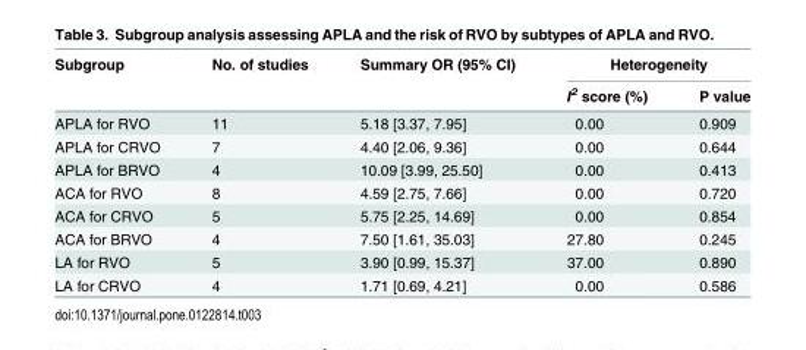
<table><thead><tr><td rowspan="2">Subgroup</td><td rowspan="2">No. of studies</td><td rowspan="2">Summary OR (95% CI)</td><td colspan="2">Heterogeneity</td></tr><tr><td>I<sup>2</sup> score (%)</td><td>P value</td></tr></thead><tbody><tr><td>APLA for RVO</td><td>11</td><td>5.18 [3.37, 7.95]</td><td>0.00</td><td>0.909</td></tr><tr><td>APLA for CRVO</td><td>7</td><td>4.40 [2.06, 9.36]</td><td>0.00</td><td>0.644</td></tr><tr><td>APLA for BRVO</td><td>4</td><td>10.09 [3.99, 25.50]</td><td>0.00</td><td>0.413</td></tr><tr><td>ACA for RVO</td><td>8</td><td>4.59 [2.75, 7.66]</td><td>0.00</td><td>0.720</td></tr><tr><td>ACA for CRVO</td><td>5</td><td>5.75 [2.25, 14.69]</td><td>0.00</td><td>0.854</td></tr><tr><td>ACA for BRVO</td><td>4</td><td>7.50 [1.61, 35.03]</td><td>27.80</td><td>0.245</td></tr><tr><td>LA for RVO</td><td>5</td><td>3.90 [0.99, 15.37]</td><td>37.00</td><td>0.890</td></tr><tr><td>LA for CRVO</td><td>4</td><td>1.71 [0.69, 4.21]</td><td>0.00</td><td>0.586</td></tr></tbody></table>